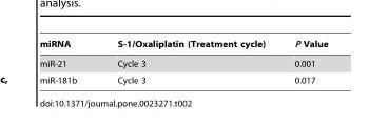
<table><thead><tr><td>miRNA</td><td>S-1/Oxaliplatin (Treatment cycle)</td><td>P Value</td></tr></thead><tbody><tr><td>miR-21</td><td>Cycle 3</td><td>0.001</td></tr><tr><td>miR-181b</td><td>Cycle 3</td><td>0.017</td></tr></tbody></table>